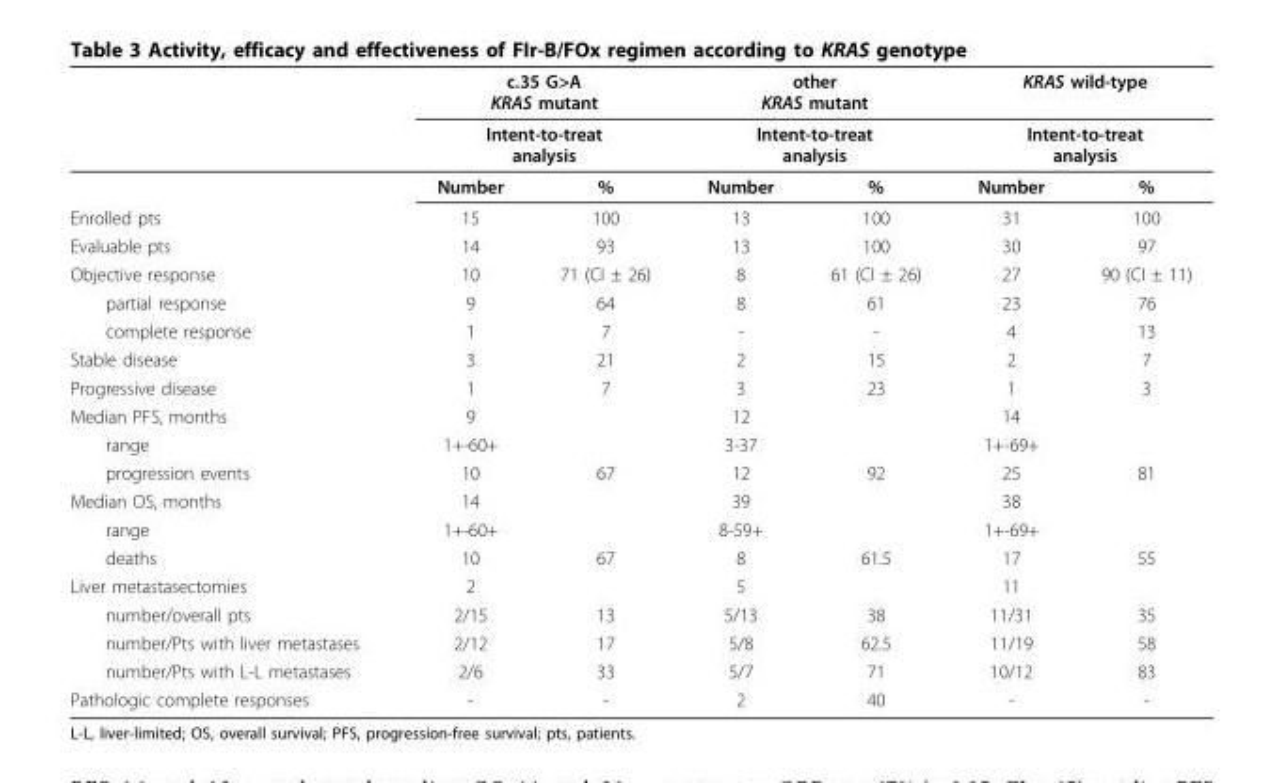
<table><thead><tr><td rowspan="3"></td><td rowspan="2" colspan="2">c.35 G&gt;A KRAS mutant Intent-to-treat analysis</td><td rowspan="2" colspan="2">other KRAS mutant Intent-to-treat analysis</td><td rowspan="2" colspan="2">KRAS wild-type Intent-to-treat analysis</td></tr><tr></tr><tr><td>Number</td><td>%</td><td>Number</td><td>%</td><td>Number</td><td>%</td></tr></thead><tbody><tr><td>Enrolled pts</td><td>15</td><td>100</td><td>13</td><td>100</td><td>31</td><td>100</td></tr><tr><td>Evaluable pts</td><td>14</td><td>93</td><td>13</td><td>100</td><td>30</td><td>97</td></tr><tr><td>Objective response</td><td>10</td><td>71 (CI ± 26)</td><td>8</td><td>61 (CI ± 26)</td><td>27</td><td>90 (CI ± 11)</td></tr><tr><td>partial response</td><td>9</td><td>64</td><td>8</td><td>61</td><td>23</td><td>76</td></tr><tr><td>complete response</td><td>1</td><td>7</td><td>-</td><td>-</td><td>4</td><td>13</td></tr><tr><td>Stable disease</td><td>3</td><td>21</td><td>2</td><td>15</td><td>2</td><td>7</td></tr><tr><td>Progressive disease</td><td>1</td><td>7</td><td>3</td><td>23</td><td>1</td><td>3</td></tr><tr><td>Median PFS, months</td><td>9</td><td></td><td>12</td><td></td><td>14</td><td></td></tr><tr><td>range</td><td>1+-60+</td><td></td><td>3-37</td><td></td><td>1+-69+</td><td></td></tr><tr><td>progression events</td><td>10</td><td>67</td><td>12</td><td>92</td><td>25</td><td>81</td></tr><tr><td>Median OS, months</td><td>14</td><td></td><td>39</td><td></td><td>38</td><td></td></tr><tr><td>range</td><td>1+-60+</td><td></td><td>8-59+</td><td></td><td>1+-69+</td><td></td></tr><tr><td>deaths</td><td>10</td><td>67</td><td>8</td><td>61.5</td><td>17</td><td>55</td></tr><tr><td>Liver metastasectomies</td><td>2</td><td></td><td>5</td><td></td><td>11</td><td></td></tr><tr><td>number/overall pts</td><td>2/15</td><td>13</td><td>5/13</td><td>38</td><td>11/31</td><td>35</td></tr><tr><td>number/Pts with liver metastases</td><td>2/12</td><td>17</td><td>5/8</td><td>62.5</td><td>11/19</td><td>58</td></tr><tr><td>number/Pts with L-L metastases</td><td>2/6</td><td>33</td><td>5/7</td><td>71</td><td>10/12</td><td>83</td></tr><tr><td>Pathologic complete responses</td><td>-</td><td>-</td><td>2</td><td>40</td><td>-</td><td>-</td></tr></tbody></table>